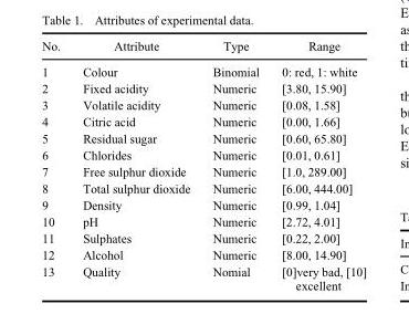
<table><thead><tr><td>No.</td><td>Attribute</td><td>Type</td><td>Range</td></tr></thead><tbody><tr><td>1</td><td>Colour</td><td>Binomial</td><td>0: red, 1: white</td></tr><tr><td>2</td><td>Fixed acidity</td><td>Numeric</td><td>[3.80, 15.90]</td></tr><tr><td>3</td><td>Volatile acidity</td><td>Numeric</td><td>[0.08, 1.58]</td></tr><tr><td>4</td><td>Citric acid</td><td>Numeric</td><td>[0.00, 1.66]</td></tr><tr><td>5</td><td>Residual sugar</td><td>Numeric</td><td>[0.60, 65.80]</td></tr><tr><td>6</td><td>Chlorides</td><td>Numeric</td><td>[0.01, 0.61]</td></tr><tr><td>7</td><td>Free sulphur dioxide</td><td>Numeric</td><td>[1.0, 289.00]</td></tr><tr><td>8</td><td>Total sulphur dioxide</td><td>Numeric</td><td>[6.00, 444.00]</td></tr><tr><td>9</td><td>Density</td><td>Numeric</td><td>[0.99, 1.04]</td></tr><tr><td>10</td><td>pH</td><td>Numeric</td><td>[2.72, 4.01]</td></tr><tr><td>11</td><td>Sulphates</td><td>Numeric</td><td>[0.22, 2.00]</td></tr><tr><td>12</td><td>Alcohol</td><td>Numeric</td><td>[8.00, 14.90]</td></tr><tr><td>13</td><td>Quality</td><td>Nomial</td><td>[0]very bad, [10] excellent</td></tr></tbody></table>